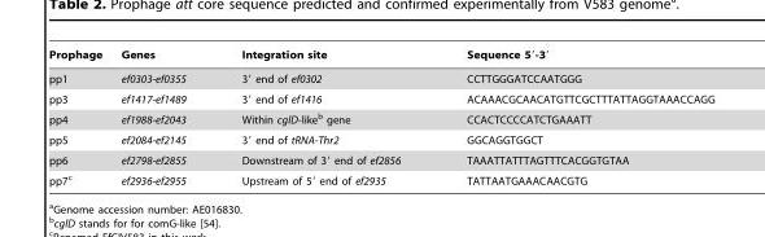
<table><thead><tr><td>Prophage</td><td>Genes</td><td>Integration site</td><td>Sequence 5′-3′</td></tr></thead><tbody><tr><td>pp1</td><td>ef0303-ef0355</td><td>3′ end of ef0302</td><td>CCTTGGGATCCAATGGG</td></tr><tr><td>pp3</td><td>ef1417-ef1489</td><td>3′ end of ef1416</td><td>ACAAACGCAACATGTTCGCTTTATTAGGTAAACCAGG</td></tr><tr><td>pp4</td><td>ef1988-ef2043</td><td>Within cglD-like<sup>b</sup> gene</td><td>CCACTCCCCATCTGAAATT</td></tr><tr><td>pp5</td><td>ef2084-ef2145</td><td>3′ end of tRNA-Thr2</td><td>GGCAGGTGGCT</td></tr><tr><td>pp6</td><td>ef2798-ef2855</td><td>Downstream of 3′ end of ef2856</td><td>TAAATTATTTAGTTTCACGGTGTAA</td></tr><tr><td>pp7<sup>c</sup></td><td>ef2936-ef2955</td><td>Upstream of 5′ end of ef2935</td><td>TATTAATGAAACAACGTG</td></tr></tbody></table>